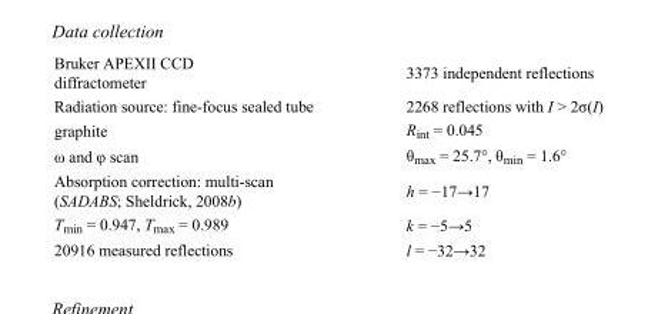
<table><tbody><tr><td>Bruker APEXII CCD diffractometer</td><td>3373 independent reflections</td></tr><tr><td>Radiation source: fine-focus sealed tube</td><td>2268 reflections with I &gt; 2σ(I)</td></tr><tr><td>graphite</td><td>R<sub>int</sub> = 0.045</td></tr><tr><td>ω and φ scan</td><td>θ<sub>max</sub> = 25.7°, θ<sub>min</sub> = 1.6°</td></tr><tr><td>Absorption correction: multi-scan (SADABS; Sheldrick, 2008b)</td><td>h = −17→17</td></tr><tr><td>T<sub>min</sub> = 0.947, T<sub>max</sub> = 0.989</td><td>k = −5→5</td></tr><tr><td>20916 measured reflections</td><td>l = −32→32</td></tr></tbody></table>